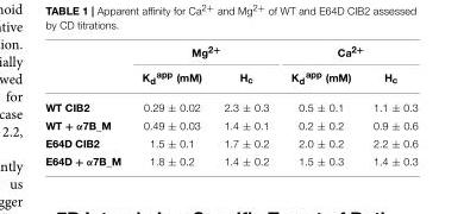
<table><thead><tr><td rowspan="2"></td><td colspan="2">Mg<sup>2+</sup></td><td colspan="2">Ca<sup>2+</sup></td></tr><tr><td>K<sub>d</sub><sup>app</sup> (mM)</td><td>H<sub>c</sub></td><td>K<sub>d</sub><sup>app</sup> (mM)</td><td>H<sub>c</sub></td></tr></thead><tbody><tr><td>WT CIB2</td><td>0.29 ± 0.02</td><td>2.3 ± 0.3</td><td>0.5 ± 0.1</td><td>1.1 ± 0.3</td></tr><tr><td>WT + α7B_M</td><td>0.49 ± 0.03</td><td>1.4 ± 0.1</td><td>0.2 ± 0.2</td><td>0.9 ± 0.6</td></tr><tr><td>E64D CIB2</td><td>1.5 ± 0.1</td><td>1.7 ± 0.2</td><td>2.0 ± 0.2</td><td>2.2 ± 0.6</td></tr><tr><td>E64D + α7B_M</td><td>1.8 ± 0.2</td><td>1.4 ± 0.2</td><td>1.5 ± 0.3</td><td>1.4 ± 0.3</td></tr></tbody></table>